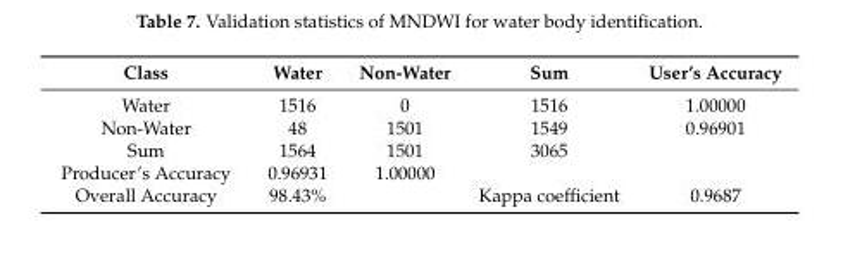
<table><thead><tr><td>Class</td><td>Water</td><td>Non-Water</td><td>Sum</td><td>User’s Accuracy</td></tr></thead><tbody><tr><td>Water</td><td>1516</td><td>0</td><td>1516</td><td>1.00000</td></tr><tr><td>Non-Water</td><td>48</td><td>1501</td><td>1549</td><td>0.96901</td></tr><tr><td>Sum</td><td>1564</td><td>1501</td><td>3065</td><td></td></tr><tr><td>Producer’s Accuracy</td><td>0.96931</td><td>1.00000</td><td></td><td></td></tr><tr><td>Overall Accuracy</td><td>98.43%</td><td></td><td>Kappa coefficient</td><td>0.9687</td></tr></tbody></table>